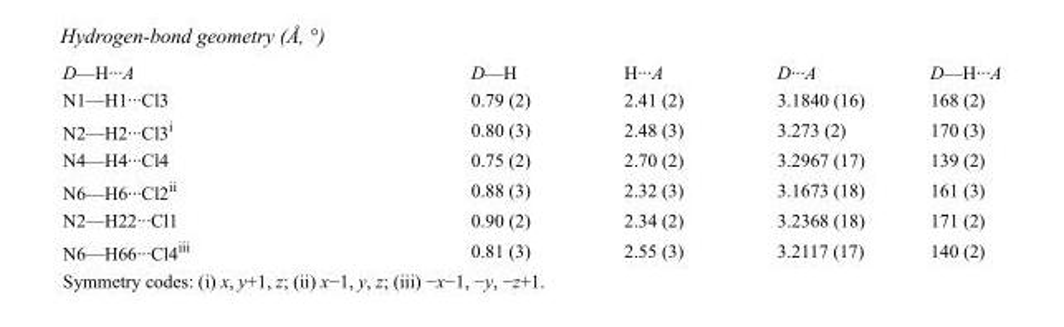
<table><tbody><tr><td>D—H···A</td><td>D—H</td><td>H···A</td><td>D···A</td><td>D—H···A</td></tr><tr><td>N1—H1···Cl3</td><td>0.79 (2)</td><td>2.41 (2)</td><td>3.1840 (16)</td><td>168 (2)</td></tr><tr><td>N2—H2···Cl3<sup>i</sup></td><td>0.80 (3)</td><td>2.48 (3)</td><td>3.273 (2)</td><td>170 (3)</td></tr><tr><td>N4—H4···Cl4</td><td>0.75 (2)</td><td>2.70 (2)</td><td>3.2967 (17)</td><td>139 (2)</td></tr><tr><td>N6—H6···Cl2<sup>ii</sup></td><td>0.88 (3)</td><td>2.32 (3)</td><td>3.1673 (18)</td><td>161 (3)</td></tr><tr><td>N2—H22···Cl1</td><td>0.90 (2)</td><td>2.34 (2)</td><td>3.2368 (18)</td><td>171 (2)</td></tr><tr><td>N6—H66···Cl4<sup>iii</sup></td><td>0.81 (3)</td><td>2.55 (3)</td><td>3.2117 (17)</td><td>140 (2)</td></tr></tbody></table>